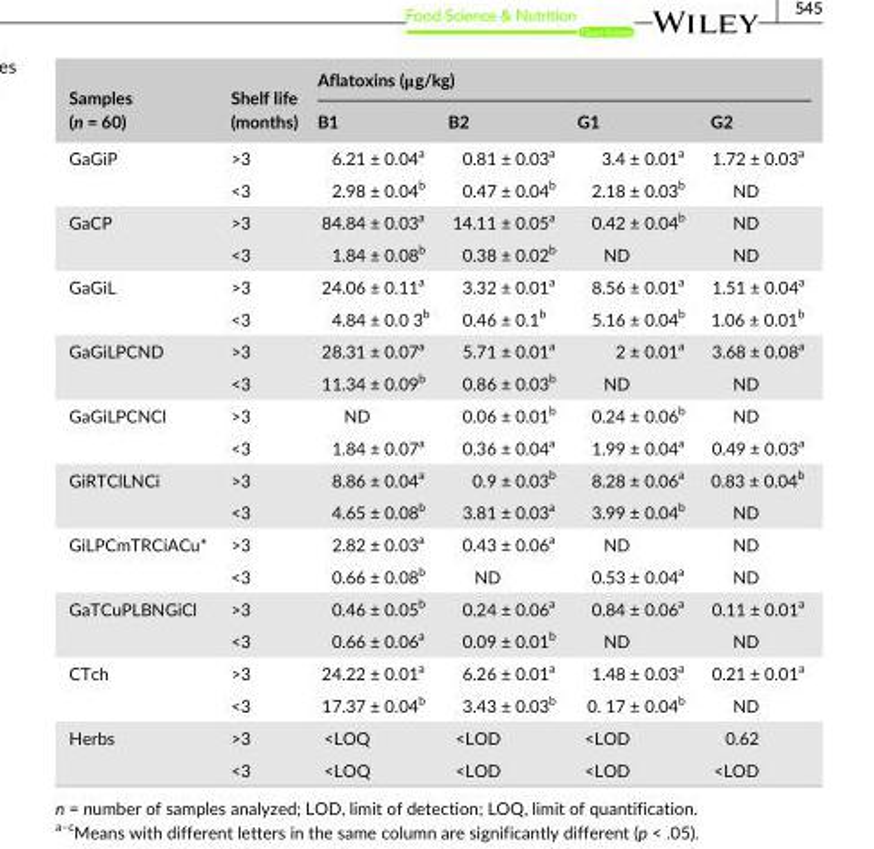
<table><thead><tr><td rowspan="2">Samples (n = 60)</td><td rowspan="2">Shelf life (months)</td><td colspan="4">Aflatoxins (μg/kg)</td></tr><tr><td>B1</td><td>B2</td><td>G1</td><td>G2</td></tr></thead><tbody><tr><td rowspan="2">GaGiP</td><td>&gt;3</td><td>6.21 ± 0.04<sup>a</sup></td><td>0.81 ± 0.03<sup>a</sup></td><td>3.4 ± 0.01<sup>a</sup></td><td>1.72 ± 0.03<sup>a</sup></td></tr><tr><td>&lt;3</td><td>2.98 ± 0.04<sup>b</sup></td><td>0.47 ± 0.04<sup>b</sup></td><td>2.18 ± 0.03<sup>b</sup></td><td>ND</td></tr><tr><td rowspan="2">GaCP</td><td>&gt;3</td><td>84.84 ± 0.03<sup>a</sup></td><td>14.11 ± 0.05<sup>a</sup></td><td>0.42 ± 0.04<sup>b</sup></td><td>ND</td></tr><tr><td>&lt;3</td><td>1.84 ± 0.08<sup>b</sup></td><td>0.38 ± 0.02<sup>b</sup></td><td>ND</td><td>ND</td></tr><tr><td rowspan="2">GaGiL</td><td>&gt;3</td><td>24.06 ± 0.11<sup>a</sup></td><td>3.32 ± 0.01<sup>a</sup></td><td>8.56 ± 0.01<sup>a</sup></td><td>1.51 ± 0.04<sup>a</sup></td></tr><tr><td>&lt;3</td><td>4.84 ± 0.0 3<sup>b</sup></td><td>0.46 ± 0.1<sup>b</sup></td><td>5.16 ± 0.04<sup>b</sup></td><td>1.06 ± 0.01<sup>b</sup></td></tr><tr><td rowspan="2">GaGiLPCND</td><td>&gt;3</td><td>28.31 ± 0.07<sup>a</sup></td><td>5.71 ± 0.01<sup>a</sup></td><td>2 ± 0.01<sup>a</sup></td><td>3.68 ± 0.08<sup>a</sup></td></tr><tr><td>&lt;3</td><td>11.34 ± 0.09<sup>b</sup></td><td>0.86 ± 0.03<sup>b</sup></td><td>ND</td><td>ND</td></tr><tr><td rowspan="2">GaGiLPCNCl</td><td>&gt;3</td><td>ND</td><td>0.06 ± 0.01<sup>b</sup></td><td>0.24 ± 0.06<sup>b</sup></td><td>ND</td></tr><tr><td>&lt;3</td><td>1.84 ± 0.07<sup>a</sup></td><td>0.36 ± 0.04<sup>a</sup></td><td>1.99 ± 0.04<sup>a</sup></td><td>0.49 ± 0.03<sup>a</sup></td></tr><tr><td rowspan="2">GiRTClLNCi</td><td>&gt;3</td><td>8.86 ± 0.04<sup>a</sup></td><td>0.9 ± 0.03<sup>b</sup></td><td>8.28 ± 0.06<sup>a</sup></td><td>0.83 ± 0.04<sup>b</sup></td></tr><tr><td>&lt;3</td><td>4.65 ± 0.08<sup>b</sup></td><td>3.81 ± 0.03<sup>a</sup></td><td>3.99 ± 0.04<sup>b</sup></td><td>ND</td></tr><tr><td rowspan="2">GiLPCmTRCiACu*</td><td>&gt;3</td><td>2.82 ± 0.03<sup>a</sup></td><td>0.43 ± 0.06<sup>a</sup></td><td>ND</td><td>ND</td></tr><tr><td>&lt;3</td><td>0.66 ± 0.08<sup>b</sup></td><td>ND</td><td>0.53 ± 0.04<sup>a</sup></td><td>ND</td></tr><tr><td rowspan="2">GaTCuPLBNGiCl</td><td>&gt;3</td><td>0.46 ± 0.05<sup>b</sup></td><td>0.24 ± 0.06<sup>a</sup></td><td>0.84 ± 0.06<sup>a</sup></td><td>0.11 ± 0.01<sup>a</sup></td></tr><tr><td>&lt;3</td><td>0.66 ± 0.06<sup>a</sup></td><td>0.09 ± 0.01<sup>b</sup></td><td>ND</td><td>ND</td></tr><tr><td rowspan="2">CTch</td><td>&gt;3</td><td>24.22 ± 0.01<sup>a</sup></td><td>6.26 ± 0.01<sup>a</sup></td><td>1.48 ± 0.03<sup>a</sup></td><td>0.21 ± 0.01<sup>a</sup></td></tr><tr><td>&lt;3</td><td>17.37 ± 0.04<sup>b</sup></td><td>3.43 ± 0.03<sup>b</sup></td><td>0. 17 ± 0.04<sup>b</sup></td><td>ND</td></tr><tr><td rowspan="2">Herbs</td><td>&gt;3</td><td>&lt;LOQ</td><td>&lt;LOD</td><td>&lt;LOD</td><td>0.62</td></tr><tr><td>&lt;3</td><td>&lt;LOQ</td><td>&lt;LOD</td><td>&lt;LOD</td><td>&lt;LOD</td></tr></tbody></table>